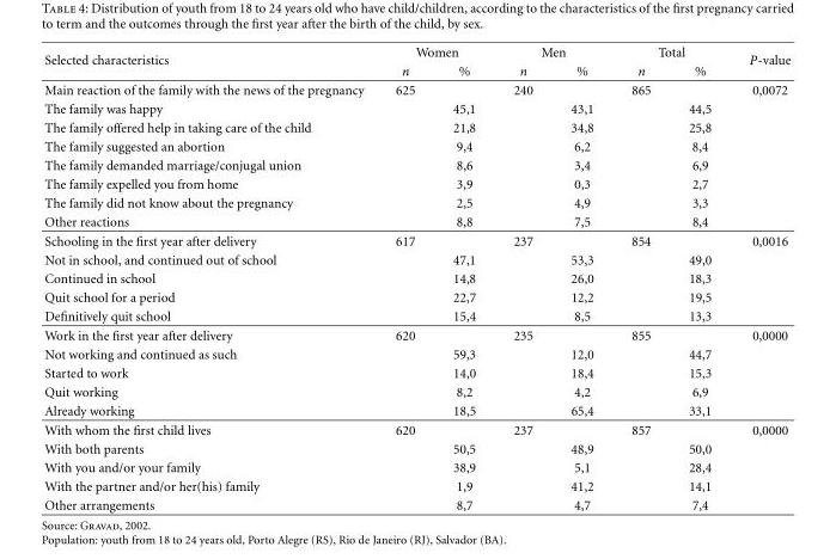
<table><thead><tr><td rowspan="2">Selected characteristics</td><td colspan="2">Women</td><td colspan="2">Men</td><td colspan="2">Total</td><td rowspan="2">P-value</td></tr><tr><td>n</td><td>%</td><td>n</td><td>%</td><td>n</td><td>%</td></tr></thead><tbody><tr><td>Main reaction of the family with the news of the pregnancy</td><td>625</td><td></td><td>240</td><td></td><td>865</td><td></td><td>0,0072</td></tr><tr><td>The family was happy</td><td></td><td>45,1</td><td></td><td>43,1</td><td></td><td>44,5</td><td></td></tr><tr><td>The family offered help in taking care of the child</td><td></td><td>21,8</td><td></td><td>34,8</td><td></td><td>25,8</td><td></td></tr><tr><td>The family suggested an abortion</td><td></td><td>9,4</td><td></td><td>6,2</td><td></td><td>8,4</td><td></td></tr><tr><td>The family demanded marriage/conjugal union</td><td></td><td>8,6</td><td></td><td>3,4</td><td></td><td>6,9</td><td></td></tr><tr><td>The family expelled you from home</td><td></td><td>3,9</td><td></td><td>0,3</td><td></td><td>2,7</td><td></td></tr><tr><td>The family did not know about the pregnancy</td><td></td><td>2,5</td><td></td><td>4,9</td><td></td><td>3,3</td><td></td></tr><tr><td>Other reactions</td><td></td><td>8,8</td><td></td><td>7,5</td><td></td><td>8,4</td><td></td></tr><tr><td>Schooling in the first year after delivery</td><td>617</td><td></td><td>237</td><td></td><td>854</td><td></td><td>0,0016</td></tr><tr><td>Not in school, and continued out of school</td><td></td><td>47,1</td><td></td><td>53,3</td><td></td><td>49,0</td><td></td></tr><tr><td>Continued in school</td><td></td><td>14,8</td><td></td><td>26,0</td><td></td><td>18,3</td><td></td></tr><tr><td>Quit school for a period</td><td></td><td>22,7</td><td></td><td>12,2</td><td></td><td>19,5</td><td></td></tr><tr><td>Definitively quit school</td><td></td><td>15,4</td><td></td><td>8,5</td><td></td><td>13,3</td><td></td></tr><tr><td>Work in the first year after delivery</td><td>620</td><td></td><td>235</td><td></td><td>855</td><td></td><td>0,0000</td></tr><tr><td>Not working and continued as such</td><td></td><td>59,3</td><td></td><td>12,0</td><td></td><td>44,7</td><td></td></tr><tr><td>Started to work</td><td></td><td>14,0</td><td></td><td>18,4</td><td></td><td>15,3</td><td></td></tr><tr><td>Quit working</td><td></td><td>8,2</td><td></td><td>4,2</td><td></td><td>6,9</td><td></td></tr><tr><td>Already working</td><td></td><td>18,5</td><td></td><td>65,4</td><td></td><td>33,1</td><td></td></tr><tr><td>With whom the first child lives</td><td>620</td><td></td><td>237</td><td></td><td>857</td><td></td><td>0,0000</td></tr><tr><td>With both parents</td><td></td><td>50,5</td><td></td><td>48,9</td><td></td><td>50,0</td><td></td></tr><tr><td>With you and/or your family</td><td></td><td>38,9</td><td></td><td>5,1</td><td></td><td>28,4</td><td></td></tr><tr><td>With the partner and/or her(his) family</td><td></td><td>1,9</td><td></td><td>41,2</td><td></td><td>14,1</td><td></td></tr><tr><td>Other arrangements</td><td></td><td>8,7</td><td></td><td>4,7</td><td></td><td>7,4</td><td></td></tr></tbody></table>